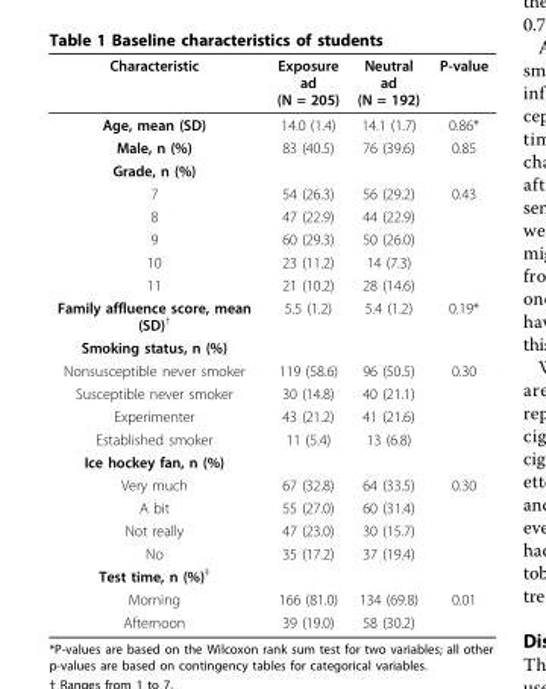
<table><thead><tr><td>Characteristic</td><td>Exposure ad (N = 205)</td><td>Neutral ad (N = 192)</td><td>P-value</td></tr></thead><tbody><tr><td>Age, mean (SD)</td><td>14.0 (1.4)</td><td>14.1 (1.7)</td><td>0.86*</td></tr><tr><td>Male, n (%)</td><td>83 (40.5)</td><td>76 (39.6)</td><td>0.85</td></tr><tr><td colspan="4">Grade, n (%)</td></tr><tr><td>7</td><td>54 (26.3)</td><td>56 (29.2)</td><td>0.43</td></tr><tr><td>8</td><td>47 (22.9)</td><td>44 (22.9)</td><td></td></tr><tr><td>9</td><td>60 (29.3)</td><td>50 (26.0)</td><td></td></tr><tr><td>10</td><td>23 (11.2)</td><td>14 (7.3)</td><td></td></tr><tr><td>11</td><td>21 (10.2)</td><td>28 (14.6)</td><td></td></tr><tr><td>Family affluence score, mean (SD)<sup>†</sup></td><td>5.5 (1.2)</td><td>5.4 (1.2)</td><td>0.19*</td></tr><tr><td colspan="4">Smoking status, n (%)</td></tr><tr><td>Nonsusceptible never smoker</td><td>119 (58.6)</td><td>96 (50.5)</td><td>0.30</td></tr><tr><td>Susceptible never smoker</td><td>30 (14.8)</td><td>40 (21.1)</td><td></td></tr><tr><td>Experimenter</td><td>43 (21.2)</td><td>41 (21.6)</td><td></td></tr><tr><td>Established smoker</td><td>11 (5.4)</td><td>13 (6.8)</td><td></td></tr><tr><td colspan="4">Ice hockey fan, n (%)</td></tr><tr><td>Very much</td><td>67 (32.8)</td><td>64 (33.5)</td><td>0.30</td></tr><tr><td>A bit</td><td>55 (27.0)</td><td>60 (31.4)</td><td></td></tr><tr><td>Not really</td><td>47 (23.0)</td><td>30 (15.7)</td><td></td></tr><tr><td>No</td><td>35 (17.2)</td><td>37 (19.4)</td><td></td></tr><tr><td colspan="4">Test time, n (%)<sup>‡</sup></td></tr><tr><td>Morning</td><td>166 (81.0)</td><td>134 (69.8)</td><td>0.01</td></tr><tr><td>Afternoon</td><td>39 (19.0)</td><td>58 (30.2)</td><td></td></tr></tbody></table>